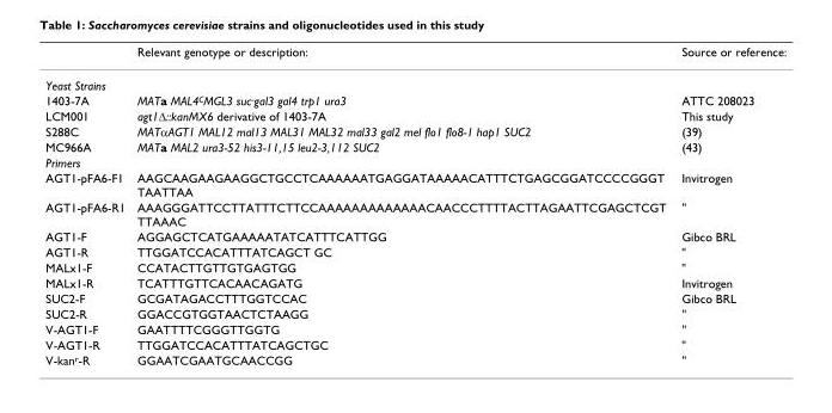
<table><thead><tr><td></td><td>Relevant genotype or description:</td><td>Source or reference:</td></tr></thead><tbody><tr><td colspan="3">Yeast Strains</td></tr><tr><td>1403-7A</td><td>MATa MAL4<sup>C</sup>MGL3 suc<sup>-</sup>gal3 gal4 trp1 ura3</td><td>ATTC 208023</td></tr><tr><td>LCM001</td><td>agt1∆::kanMX6 derivative of 1403-7A</td><td>This study</td></tr><tr><td>S288C</td><td>MATαAGT1 MAL12 mal13 MAL31 MAL32 mal33 gal2 mel flo1 flo8-1 hap1 SUC2</td><td>(39)</td></tr><tr><td>MC966A</td><td>MATa MAL2 ura3-52 his3-11,15 leu2-3,112 SUC2</td><td>(43)</td></tr><tr><td colspan="3">Primers</td></tr><tr><td>AGT1-pFA6-F1</td><td>AAGCAAGAAGAAGGCTGCCTCAAAAAATGAGGATAAAAACATTTCTGAGCGGATCCCCGGGT TAATTAA</td><td>Invitrogen</td></tr><tr><td>AGT1-pFA6-R1</td><td>AAAGGGATTCCTTATTTCTTCCAAAAAAAAAAAAACAACCCTTTTACTTAGAATTCGAGCTCGT TTAAAC</td><td>&quot;</td></tr><tr><td>AGT1-F</td><td>AGGAGCTCATGAAAAATATCATTTCATTGG</td><td>Gibco BRL</td></tr><tr><td>AGT1-R</td><td>TTGGATCCACATTTATCAGCT GC</td><td>&quot;</td></tr><tr><td>MALx1-F</td><td>CCATACTTGTTGTGAGTGG</td><td>&quot;</td></tr><tr><td>MALx1-R</td><td>TCATTTGTTCACAACAGATG</td><td>Invitrogen</td></tr><tr><td>SUC2-F</td><td>GCGATAGACCTTTGGTCCAC</td><td>Gibco BRL</td></tr><tr><td>SUC2-R</td><td>GGACCGTGGTAACTCTAAGG</td><td>&quot;</td></tr><tr><td>V-AGT1-F</td><td>GAATTTTCGGGTTGGTG</td><td>&quot;</td></tr><tr><td>V-AGT1-R</td><td>TTGGATCCACATTTATCAGCTGC</td><td>&quot;</td></tr><tr><td>V-kan<sup>r</sup>-R</td><td>GGAATCGAATGCAACCGG</td><td>&quot;</td></tr></tbody></table>